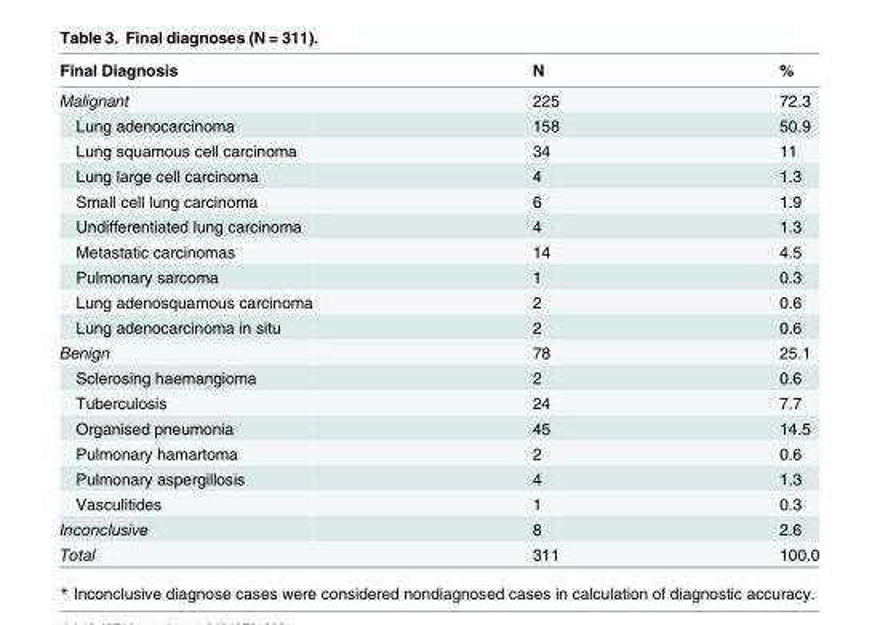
<table><thead><tr><td>Final Diagnosis</td><td>N</td><td>%</td></tr></thead><tbody><tr><td>Malignant</td><td>225</td><td>72.3</td></tr><tr><td>Lung adenocarcinoma</td><td>158</td><td>50.9</td></tr><tr><td>Lung squamous cell carcinoma</td><td>34</td><td>11</td></tr><tr><td>Lung large cell carcinoma</td><td>4</td><td>1.3</td></tr><tr><td>Small cell lung carcinoma</td><td>6</td><td>1.9</td></tr><tr><td>Undifferentiated lung carcinoma</td><td>4</td><td>1.3</td></tr><tr><td>Metastatic carcinomas</td><td>14</td><td>4.5</td></tr><tr><td>Pulmonary sarcoma</td><td>1</td><td>0.3</td></tr><tr><td>Lung adenosquamous carcinoma</td><td>2</td><td>0.6</td></tr><tr><td>Lung adenocarcinoma in situ</td><td>2</td><td>0.6</td></tr><tr><td>Benign</td><td>78</td><td>25.1</td></tr><tr><td>Sclerosing haemangioma</td><td>2</td><td>0.6</td></tr><tr><td>Tuberculosis</td><td>24</td><td>7.7</td></tr><tr><td>Organised pneumonia</td><td>45</td><td>14.5</td></tr><tr><td>Pulmonary hamartoma</td><td>2</td><td>0.6</td></tr><tr><td>Pulmonary aspergillosis</td><td>4</td><td>1.3</td></tr><tr><td>Vasculitides</td><td>1</td><td>0.3</td></tr><tr><td>Inconclusive</td><td>8</td><td>2.6</td></tr><tr><td>Total</td><td>311</td><td>100.0</td></tr></tbody></table>